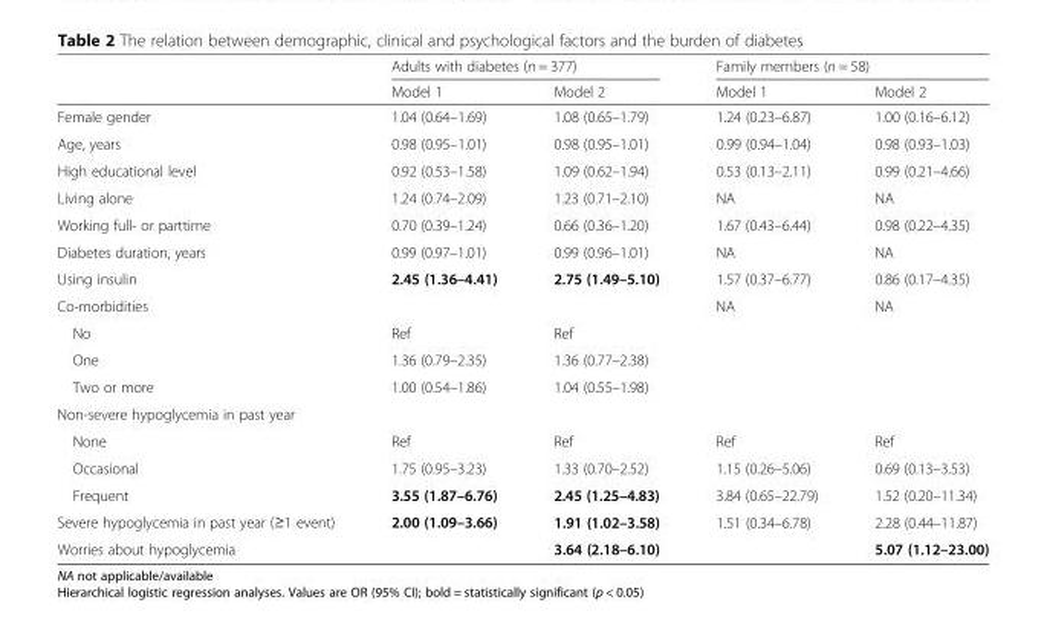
<table><thead><tr><td rowspan="2"></td><td colspan="2">Adults with diabetes (n = 377)</td><td colspan="2">Family members (n = 58)</td></tr><tr><td>Model 1</td><td>Model 2</td><td>Model 1</td><td>Model 2</td></tr></thead><tbody><tr><td>Female gender</td><td>1.04 (0.64–1.69)</td><td>1.08 (0.65–1.79)</td><td>1.24 (0.23–6.87)</td><td>1.00 (0.16–6.12)</td></tr><tr><td>Age, years</td><td>0.98 (0.95–1.01)</td><td>0.98 (0.95–1.01)</td><td>0.99 (0.94–1.04)</td><td>0.98 (0.93–1.03)</td></tr><tr><td>High educational level</td><td>0.92 (0.53–1.58)</td><td>1.09 (0.62–1.94)</td><td>0.53 (0.13–2.11)</td><td>0.99 (0.21–4.66)</td></tr><tr><td>Living alone</td><td>1.24 (0.74–2.09)</td><td>1.23 (0.71–2.10)</td><td>NA</td><td>NA</td></tr><tr><td>Working full- or parttime</td><td>0.70 (0.39–1.24)</td><td>0.66 (0.36–1.20)</td><td>1.67 (0.43–6.44)</td><td>0.98 (0.22–4.35)</td></tr><tr><td>Diabetes duration, years</td><td>0.99 (0.97–1.01)</td><td>0.99 (0.96–1.01)</td><td>NA</td><td>NA</td></tr><tr><td>Using insulin</td><td>2.45 (1.36–4.41)</td><td>2.75 (1.49–5.10)</td><td>1.57 (0.37–6.77)</td><td>0.86 (0.17–4.35)</td></tr><tr><td>Co-morbidities</td><td></td><td></td><td>NA</td><td>NA</td></tr><tr><td>No</td><td>Ref</td><td>Ref</td><td></td><td></td></tr><tr><td>One</td><td>1.36 (0.79–2.35)</td><td>1.36 (0.77–2.38)</td><td></td><td></td></tr><tr><td>Two or more</td><td>1.00 (0.54–1.86)</td><td>1.04 (0.55–1.98)</td><td></td><td></td></tr><tr><td colspan="5">Non-severe hypoglycemia in past year</td></tr><tr><td>None</td><td>Ref</td><td>Ref</td><td>Ref</td><td>Ref</td></tr><tr><td>Occasional</td><td>1.75 (0.95–3.23)</td><td>1.33 (0.70–2.52)</td><td>1.15 (0.26–5.06)</td><td>0.69 (0.13–3.53)</td></tr><tr><td>Frequent</td><td>3.55 (1.87–6.76)</td><td>2.45 (1.25–4.83)</td><td>3.84 (0.65–22.79)</td><td>1.52 (0.20–11.34)</td></tr><tr><td>Severe hypoglycemia in past year (≥1 event)</td><td>2.00 (1.09–3.66)</td><td>1.91 (1.02–3.58)</td><td>1.51 (0.34–6.78)</td><td>2.28 (0.44–11.87)</td></tr><tr><td>Worries about hypoglycemia</td><td></td><td>3.64 (2.18–6.10)</td><td></td><td>5.07 (1.12–23.00)</td></tr></tbody></table>